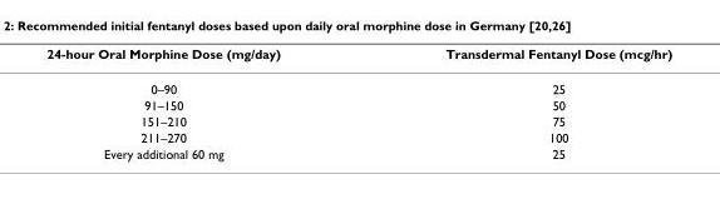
<table><thead><tr><td>24-hour Oral Morphine Dose (mg/day)</td><td>Transdermal Fentanyl Dose (mcg/hr)</td></tr></thead><tbody><tr><td>0–90</td><td>25</td></tr><tr><td>91–150</td><td>50</td></tr><tr><td>151–210</td><td>75</td></tr><tr><td>211–270</td><td>100</td></tr><tr><td>Every additional 60 mg</td><td>25</td></tr></tbody></table>